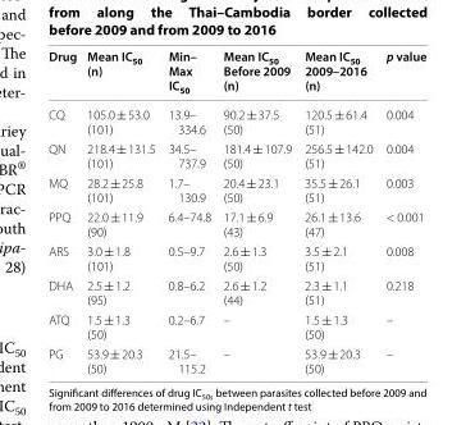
<table><thead><tr><td>Drug</td><td>Mean IC<sub>50</sub> (n)</td><td>Min– Max IC<sub>50</sub></td><td>Mean IC<sub>50</sub> Before 2009 (n)</td><td>Mean IC<sub>50</sub> 2009–2016 (n)</td><td>p value</td></tr></thead><tbody><tr><td>CQ</td><td>105.0 ± 53.0 (101)</td><td>13.9– 334.6</td><td>90.2 ± 37.5 (50)</td><td>120.5 ± 61.4 (51)</td><td>0.004</td></tr><tr><td>QN</td><td>218.4 ± 131.5 (101)</td><td>34.5– 737.9</td><td>181.4 ± 107.9 (50)</td><td>256.5 ± 142.0 (51)</td><td>0.004</td></tr><tr><td>MQ</td><td>28.2 ± 25.8 (101)</td><td>1.7– 130.9</td><td>20.4 ± 23.1 (50)</td><td>35.5 ± 26.1 (51)</td><td>0.003</td></tr><tr><td>PPQ</td><td>22.0 ± 11.9 (90)</td><td>6.4–74.8</td><td>17.1 ± 6.9 (43)</td><td>26.1 ± 13.6 (47)</td><td>&lt; 0.001</td></tr><tr><td>ARS</td><td>3.0 ± 1.8 (101)</td><td>0.5–9.7</td><td>2.6 ± 1.3 (50)</td><td>3.5 ± 2.1 (51)</td><td>0.008</td></tr><tr><td>DHA</td><td>2.5 ± 1.2 (95)</td><td>0.8–6.2</td><td>2.6 ± 1.2 (44)</td><td>2.3 ± 1.1 (51)</td><td>0.218</td></tr><tr><td>ATQ</td><td>1.5 ± 1.3 (50)</td><td>0.2–6.7</td><td>–</td><td>1.5 ± 1.3 (50)</td><td>–</td></tr><tr><td>PG</td><td>53.9 ± 20.3 (50)</td><td>21.5– 115.2</td><td>–</td><td>53.9 ± 20.3 (50)</td><td>–</td></tr></tbody></table>